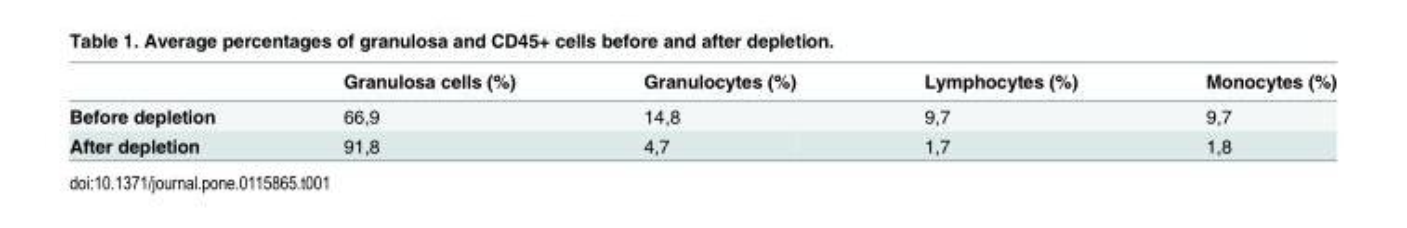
<table><thead><tr><td></td><td>Granulosa cells (%)</td><td>Granulocytes (%)</td><td>Lymphocytes (%)</td><td>Monocytes (%)</td></tr></thead><tbody><tr><td>Before depletion</td><td>66,9</td><td>14,8</td><td>9,7</td><td>9,7</td></tr><tr><td>After depletion</td><td>91,8</td><td>4,7</td><td>1,7</td><td>1,8</td></tr></tbody></table>